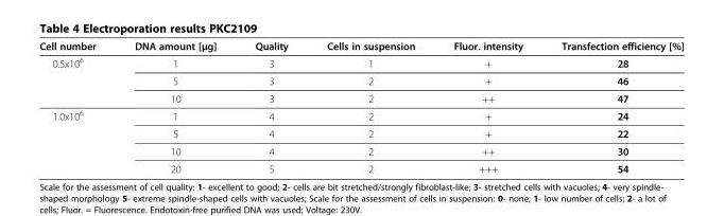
<table><thead><tr><td>Cell number</td><td>DNA amount [μg]</td><td>Quality</td><td>Cells in suspension</td><td>Fluor. intensity</td><td>Transfection efficiency [%]</td></tr></thead><tbody><tr><td rowspan="3">0.5x10<sup>6</sup></td><td>1</td><td>3</td><td>1</td><td>+</td><td>28</td></tr><tr><td>5</td><td>3</td><td>2</td><td>+</td><td>46</td></tr><tr><td>10</td><td>3</td><td>2</td><td>++</td><td>47</td></tr><tr><td rowspan="4">1.0x10<sup>6</sup></td><td>1</td><td>4</td><td>2</td><td>+</td><td>24</td></tr><tr><td>5</td><td>4</td><td>2</td><td>+</td><td>22</td></tr><tr><td>10</td><td>4</td><td>2</td><td>++</td><td>30</td></tr><tr><td>20</td><td>5</td><td>2</td><td>+++</td><td>54</td></tr></tbody></table>